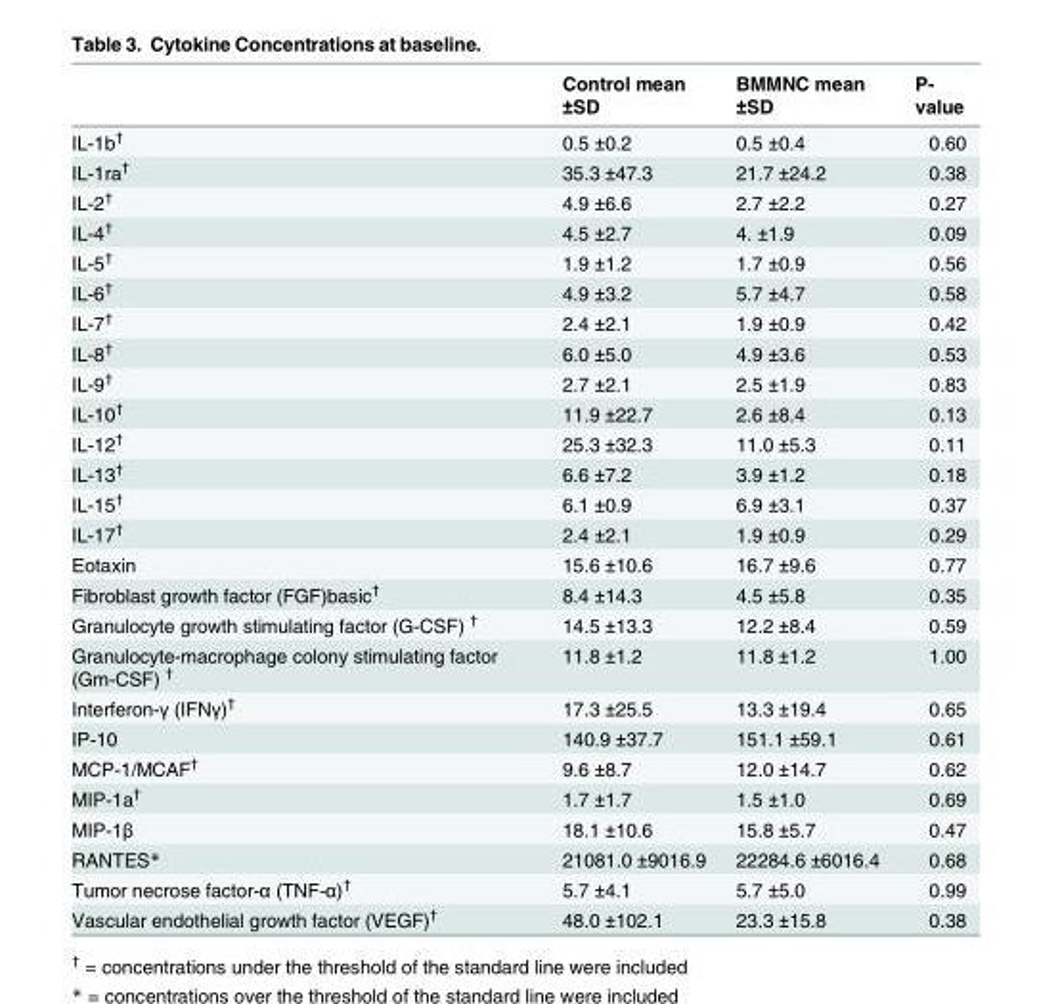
<table><thead><tr><td></td><td>Control mean ±SD</td><td>BMMNC mean ±SD</td><td>P- value</td></tr></thead><tbody><tr><td>IL-1b<sup>†</sup></td><td>0.5 ±0.2</td><td>0.5 ±0.4</td><td>0.60</td></tr><tr><td>IL-1ra<sup>†</sup></td><td>35.3 ±47.3</td><td>21.7 ±24.2</td><td>0.38</td></tr><tr><td>IL-2<sup>†</sup></td><td>4.9 ±6.6</td><td>2.7 ±2.2</td><td>0.27</td></tr><tr><td>IL-4<sup>†</sup></td><td>4.5 ±2.7</td><td>4. ±1.9</td><td>0.09</td></tr><tr><td>IL-5<sup>†</sup></td><td>1.9 ±1.2</td><td>1.7 ±0.9</td><td>0.56</td></tr><tr><td>IL-6<sup>†</sup></td><td>4.9 ±3.2</td><td>5.7 ±4.7</td><td>0.58</td></tr><tr><td>IL-7<sup>†</sup></td><td>2.4 ±2.1</td><td>1.9 ±0.9</td><td>0.42</td></tr><tr><td>IL-8<sup>†</sup></td><td>6.0 ±5.0</td><td>4.9 ±3.6</td><td>0.53</td></tr><tr><td>IL-9<sup>†</sup></td><td>2.7 ±2.1</td><td>2.5 ±1.9</td><td>0.83</td></tr><tr><td>IL-10<sup>†</sup></td><td>11.9 ±22.7</td><td>2.6 ±8.4</td><td>0.13</td></tr><tr><td>IL-12<sup>†</sup></td><td>25.3 ±32.3</td><td>11.0 ±5.3</td><td>0.11</td></tr><tr><td>IL-13<sup>†</sup></td><td>6.6 ±7.2</td><td>3.9 ±1.2</td><td>0.18</td></tr><tr><td>IL-15<sup>†</sup></td><td>6.1 ±0.9</td><td>6.9 ±3.1</td><td>0.37</td></tr><tr><td>IL-17<sup>†</sup></td><td>2.4 ±2.1</td><td>1.9 ±0.9</td><td>0.29</td></tr><tr><td>Eotaxin</td><td>15.6 ±10.6</td><td>16.7 ±9.6</td><td>0.77</td></tr><tr><td>Fibroblast growth factor (FGF)basic<sup>†</sup></td><td>8.4 ±14.3</td><td>4.5 ±5.8</td><td>0.35</td></tr><tr><td>Granulocyte growth stimulating factor (G-CSF) <sup>†</sup></td><td>14.5 ±13.3</td><td>12.2 ±8.4</td><td>0.59</td></tr><tr><td>Granulocyte-macrophage colony stimulating factor (Gm-CSF) <sup>†</sup></td><td>11.8 ±1.2</td><td>11.8 ±1.2</td><td>1.00</td></tr><tr><td>Interferon-γ (IFNγ)<sup>†</sup></td><td>17.3 ±25.5</td><td>13.3 ±19.4</td><td>0.65</td></tr><tr><td>IP-10</td><td>140.9 ±37.7</td><td>151.1 ±59.1</td><td>0.61</td></tr><tr><td>MCP-1/MCAF<sup>†</sup></td><td>9.6 ±8.7</td><td>12.0 ±14.7</td><td>0.62</td></tr><tr><td>MIP-1a<sup>†</sup></td><td>1.7 ±1.7</td><td>1.5 ±1.0</td><td>0.69</td></tr><tr><td>MIP-1β</td><td>18.1 ±10.6</td><td>15.8 ±5.7</td><td>0.47</td></tr><tr><td>RANTES*</td><td>21081.0 ±9016.9</td><td>22284.6 ±6016.4</td><td>0.68</td></tr><tr><td>Tumor necrose factor-α (TNF-α)<sup>†</sup></td><td>5.7 ±4.1</td><td>5.7 ±5.0</td><td>0.99</td></tr><tr><td>Vascular endothelial growth factor (VEGF)<sup>†</sup></td><td>48.0 ±102.1</td><td>23.3 ±15.8</td><td>0.38</td></tr></tbody></table>